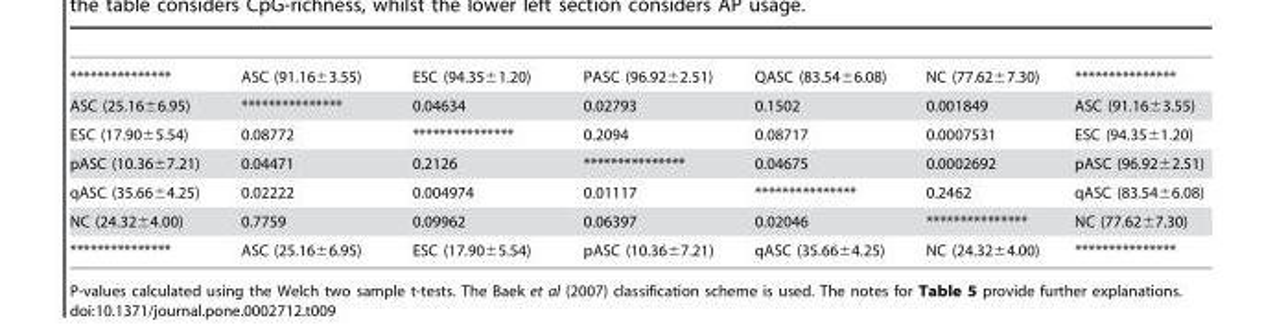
<table><tbody><tr><td>***************</td><td>ASC (91.16±3.55)</td><td>ESC (94.35±1.20)</td><td>PASC (96.92±2.51)</td><td>QASC (83.54±6.08)</td><td>NC (77.62±7.30)</td><td>***************</td></tr><tr><td>ASC (25.16±6.95)</td><td>***************</td><td>0.04634</td><td>0.02793</td><td>0.1502</td><td>0.001849</td><td>ASC (91.16±3.55)</td></tr><tr><td>ESC (17.90±5.54)</td><td>0.08772</td><td>***************</td><td>0.2094</td><td>0.08717</td><td>0.0007531</td><td>ESC (94.35±1.20)</td></tr><tr><td>pASC (10.36±7.21)</td><td>0.04471</td><td>0.2126</td><td>***************</td><td>0.04675</td><td>0.0002692</td><td>pASC (96.92±2.51)</td></tr><tr><td>qASC (35.66±4.25)</td><td>0.02222</td><td>0.004974</td><td>0.01117</td><td>***************</td><td>0.2462</td><td>qASC (83.54±6.08)</td></tr><tr><td>NC (24.32±4.00)</td><td>0.7759</td><td>0.09962</td><td>0.06397</td><td>0.02046</td><td>***************</td><td>NC (77.62±7.30)</td></tr><tr><td>***************</td><td>ASC (25.16±6.95)</td><td>ESC (17.90±5.54)</td><td>pASC (10.36±7.21)</td><td>qASC (35.66±4.25)</td><td>NC (24.32±4.00)</td><td>***************</td></tr></tbody></table>